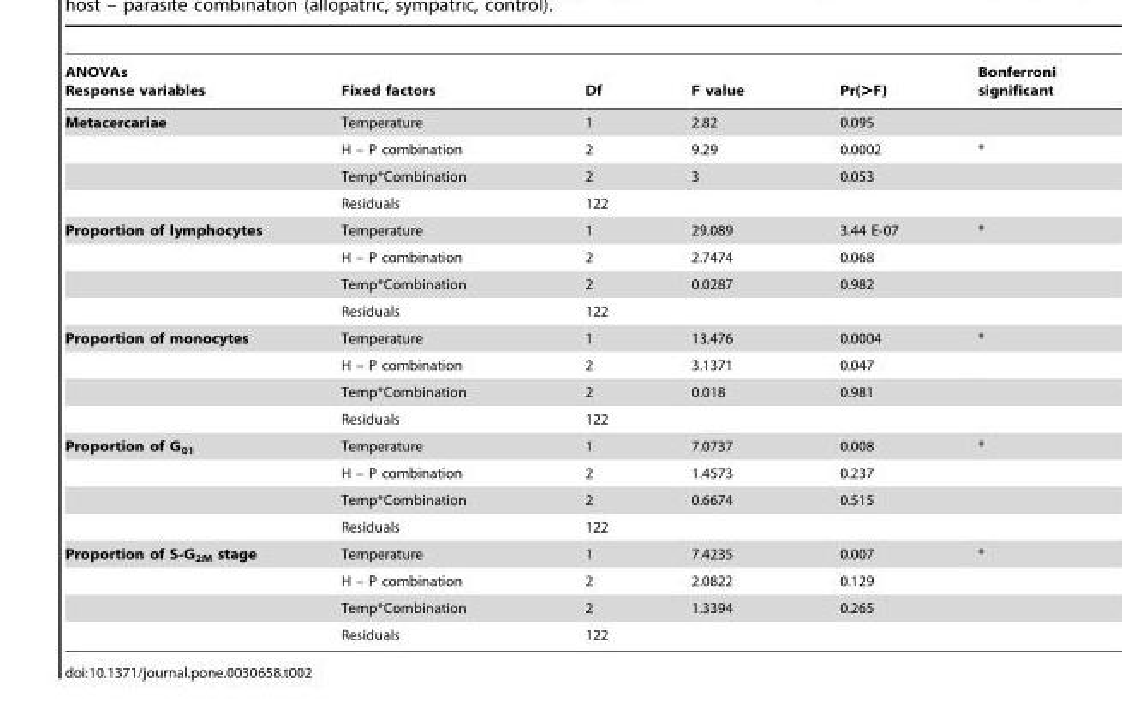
<table><thead><tr><td>ANOVAs Response variables</td><td>Fixed factors</td><td>Df</td><td>F value</td><td>Pr(&gt;F)</td><td>Bonferroni significant</td></tr></thead><tbody><tr><td rowspan="4">Metacercariae</td><td>Temperature</td><td>1</td><td>2.82</td><td>0.095</td><td></td></tr><tr><td>H – P combination</td><td>2</td><td>9.29</td><td>0.0002</td><td>*</td></tr><tr><td>Temp*Combination</td><td>2</td><td>3</td><td>0.053</td><td></td></tr><tr><td>Residuals</td><td>122</td><td></td><td></td><td></td></tr><tr><td rowspan="4">Proportion of lymphocytes</td><td>Temperature</td><td>1</td><td>29.089</td><td>3.44 E-07</td><td>*</td></tr><tr><td>H – P combination</td><td>2</td><td>2.7474</td><td>0.068</td><td></td></tr><tr><td>Temp*Combination</td><td>2</td><td>0.0287</td><td>0.982</td><td></td></tr><tr><td>Residuals</td><td>122</td><td></td><td></td><td></td></tr><tr><td rowspan="4">Proportion of monocytes</td><td>Temperature</td><td>1</td><td>13.476</td><td>0.0004</td><td>*</td></tr><tr><td>H – P combination</td><td>2</td><td>3.1371</td><td>0.047</td><td></td></tr><tr><td>Temp*Combination</td><td>2</td><td>0.018</td><td>0.981</td><td></td></tr><tr><td>Residuals</td><td>122</td><td></td><td></td><td></td></tr><tr><td rowspan="4">Proportion of G<sub>01</sub></td><td>Temperature</td><td>1</td><td>7.0737</td><td>0.008</td><td>*</td></tr><tr><td>H – P combination</td><td>2</td><td>1.4573</td><td>0.237</td><td></td></tr><tr><td>Temp*Combination</td><td>2</td><td>0.6674</td><td>0.515</td><td></td></tr><tr><td>Residuals</td><td>122</td><td></td><td></td><td></td></tr><tr><td rowspan="4">Proportion of S-G<sub>2M</sub> stage</td><td>Temperature</td><td>1</td><td>7.4235</td><td>0.007</td><td>*</td></tr><tr><td>H – P combination</td><td>2</td><td>2.0822</td><td>0.129</td><td></td></tr><tr><td>Temp*Combination</td><td>2</td><td>1.3394</td><td>0.265</td><td></td></tr><tr><td>Residuals</td><td>122</td><td></td><td></td><td></td></tr></tbody></table>